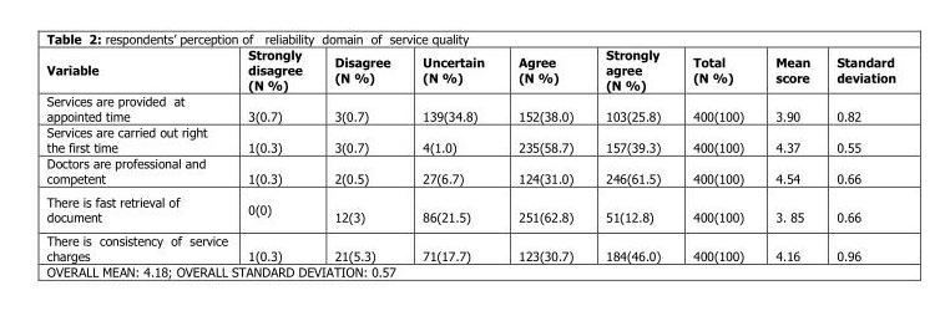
<table><thead><tr><td>Variable</td><td>Strongly disagree (N %)</td><td>Disagree (N %)</td><td>Uncertain (N %)</td><td>Agree (N %)</td><td>Strongly agree (N %)</td><td>Total (N %)</td><td>Mean score</td><td>Standard deviation</td></tr></thead><tbody><tr><td>Services are provided at appointed time</td><td>3(0.7)</td><td>3(0.7)</td><td>139(34.8)</td><td>152(38.0)</td><td>103(25.8)</td><td>400(100)</td><td>3.90</td><td>0.82</td></tr><tr><td>Services are carried out right the first time</td><td>1(0.3)</td><td>3(0.7)</td><td>4(1.0)</td><td>235(58.7)</td><td>157(39.3)</td><td>400(100)</td><td>4.37</td><td>0.55</td></tr><tr><td>Doctors are professional and competent</td><td>1(0.3)</td><td>2(0.5)</td><td>27(6.7)</td><td>124(31.0)</td><td>246(61.5)</td><td>400(100)</td><td>4.54</td><td>0.66</td></tr><tr><td>There is fast retrieval of document</td><td>0(0)</td><td>12(3)</td><td>86(21.5)</td><td>251(62.8)</td><td>51(12.8)</td><td>400(100)</td><td>3. 85</td><td>0.66</td></tr><tr><td>There is consistency of service charges</td><td>1(0.3)</td><td>21(5.3)</td><td>71(17.7)</td><td>123(30.7)</td><td>184(46.0)</td><td>400(100)</td><td>4.16</td><td>0.96</td></tr></tbody></table>